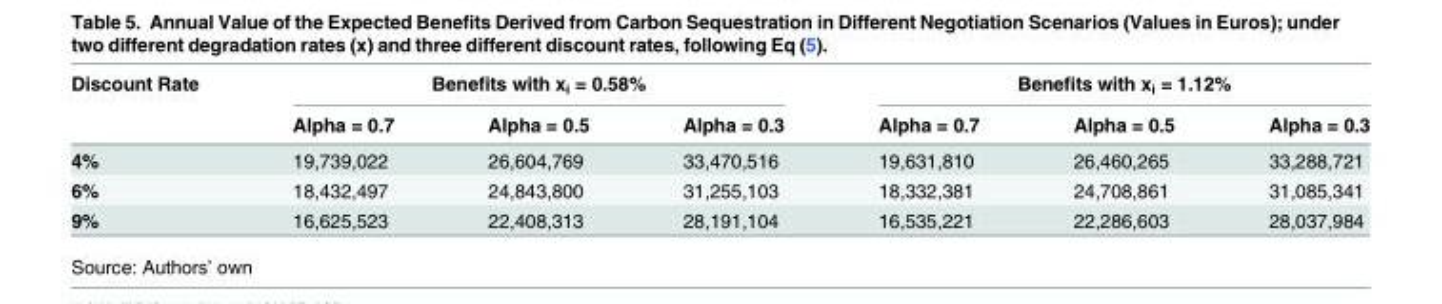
<table><thead><tr><td rowspan="2">Discount Rate</td><td colspan="3">Benefits with x<sub>i</sub> = 0.58%</td><td colspan="3">Benefits with x<sub>i</sub> = 1.12%</td></tr><tr><td>Alpha = 0.7</td><td>Alpha = 0.5</td><td>Alpha = 0.3</td><td>Alpha = 0.7</td><td>Alpha = 0.5</td><td>Alpha = 0.3</td></tr></thead><tbody><tr><td>4%</td><td>19,739,022</td><td>26,604,769</td><td>33,470,516</td><td>19,631,810</td><td>26,460,265</td><td>33,288,721</td></tr><tr><td>6%</td><td>18,432,497</td><td>24,843,800</td><td>31,255,103</td><td>18,332,381</td><td>24,708,861</td><td>31,085,341</td></tr><tr><td>9%</td><td>16,625,523</td><td>22,408,313</td><td>28,191,104</td><td>16,535,221</td><td>22,286,603</td><td>28,037,984</td></tr></tbody></table>